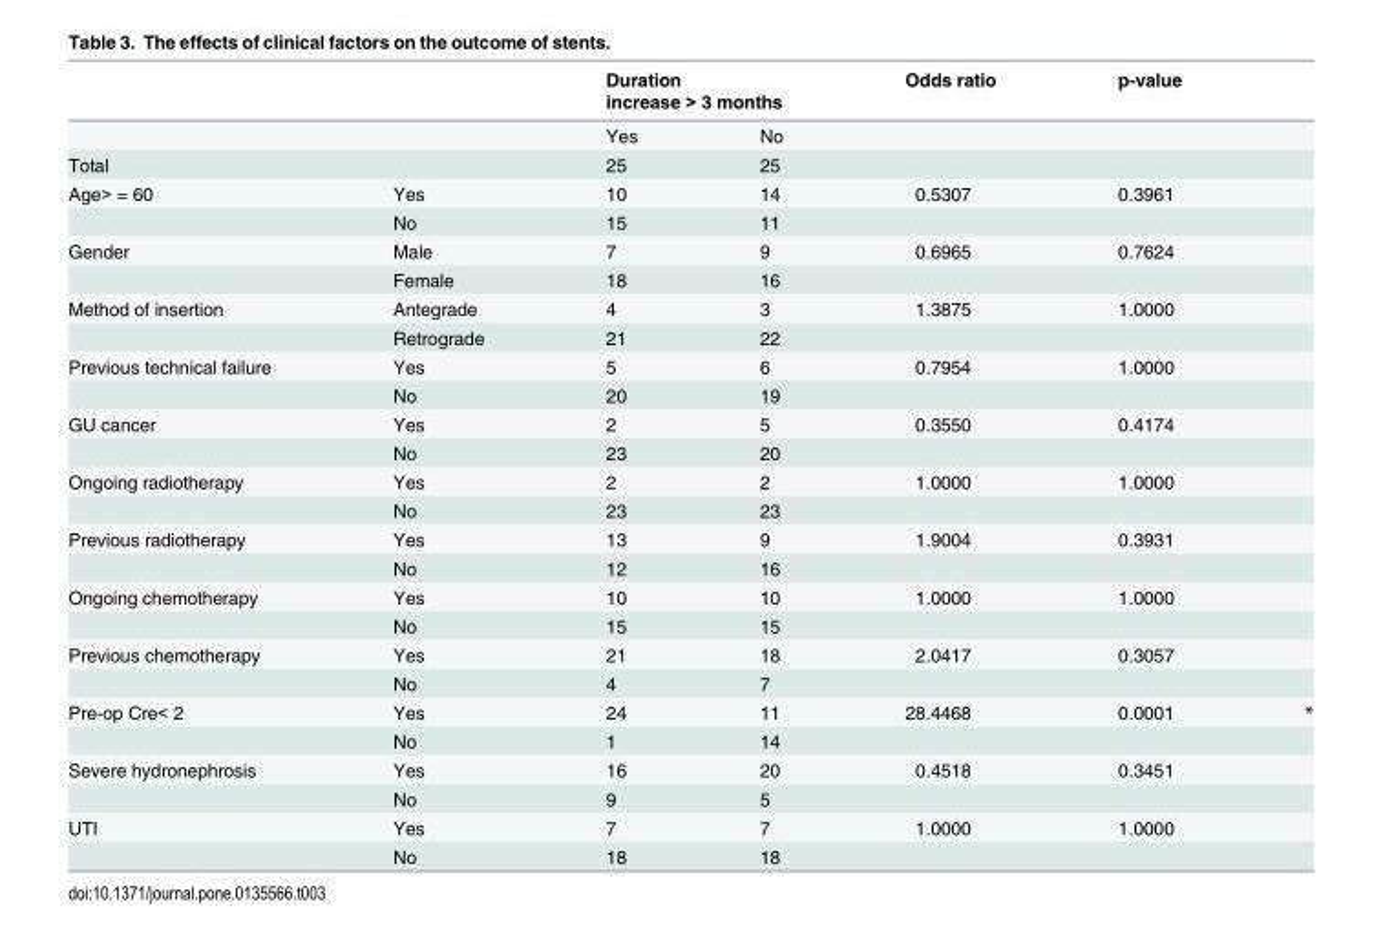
<table><thead><tr><td rowspan="2"></td><td rowspan="2"></td><td colspan="2">Duration increase &gt; 3 months</td><td rowspan="2">Odds ratio</td><td rowspan="2">p-value</td><td rowspan="2"></td></tr><tr><td>Yes</td><td>No</td></tr></thead><tbody><tr><td>Total</td><td></td><td>25</td><td>25</td><td></td><td></td><td></td></tr><tr><td rowspan="2">Age&gt; = 60</td><td>Yes</td><td>10</td><td>14</td><td>0.5307</td><td>0.3961</td><td></td></tr><tr><td>No</td><td>15</td><td>11</td><td></td><td></td><td></td></tr><tr><td rowspan="2">Gender</td><td>Male</td><td>7</td><td>9</td><td>0.6965</td><td>0.7624</td><td></td></tr><tr><td>Female</td><td>18</td><td>16</td><td></td><td></td><td></td></tr><tr><td rowspan="2">Method of insertion</td><td>Antegrade</td><td>4</td><td>3</td><td>1.3875</td><td>1.0000</td><td></td></tr><tr><td>Retrograde</td><td>21</td><td>22</td><td></td><td></td><td></td></tr><tr><td rowspan="2">Previous technical failure</td><td>Yes</td><td>5</td><td>6</td><td>0.7954</td><td>1.0000</td><td></td></tr><tr><td>No</td><td>20</td><td>19</td><td></td><td></td><td></td></tr><tr><td rowspan="2">GU cancer</td><td>Yes</td><td>2</td><td>5</td><td>0.3550</td><td>0.4174</td><td></td></tr><tr><td>No</td><td>23</td><td>20</td><td></td><td></td><td></td></tr><tr><td rowspan="2">Ongoing radiotherapy</td><td>Yes</td><td>2</td><td>2</td><td>1.0000</td><td>1.0000</td><td></td></tr><tr><td>No</td><td>23</td><td>23</td><td></td><td></td><td></td></tr><tr><td rowspan="2">Previous radiotherapy</td><td>Yes</td><td>13</td><td>9</td><td>1.9004</td><td>0.3931</td><td></td></tr><tr><td>No</td><td>12</td><td>16</td><td></td><td></td><td></td></tr><tr><td rowspan="2">Ongoing chemotherapy</td><td>Yes</td><td>10</td><td>10</td><td>1.0000</td><td>1.0000</td><td></td></tr><tr><td>No</td><td>15</td><td>15</td><td></td><td></td><td></td></tr><tr><td rowspan="2">Previous chemotherapy</td><td>Yes</td><td>21</td><td>18</td><td>2.0417</td><td>0.3057</td><td></td></tr><tr><td>No</td><td>4</td><td>7</td><td></td><td></td><td></td></tr><tr><td rowspan="2">Pre-op Cre&lt; 2</td><td>Yes</td><td>24</td><td>11</td><td>28.4468</td><td>0.0001</td><td>*</td></tr><tr><td>No</td><td>1</td><td>14</td><td></td><td></td><td></td></tr><tr><td rowspan="2">Severe hydronephrosis</td><td>Yes</td><td>16</td><td>20</td><td>0.4518</td><td>0.3451</td><td></td></tr><tr><td>No</td><td>9</td><td>5</td><td></td><td></td><td></td></tr><tr><td rowspan="2">UTI</td><td>Yes</td><td>7</td><td>7</td><td>1.0000</td><td>1.0000</td><td></td></tr><tr><td>No</td><td>18</td><td>18</td><td></td><td></td><td></td></tr></tbody></table>